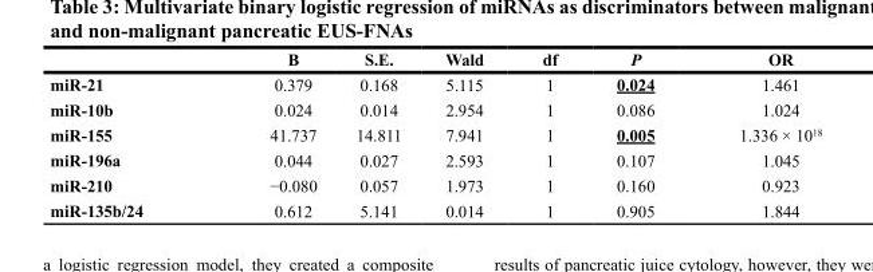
<table><thead><tr><td></td><td>B</td><td>S.E.</td><td>Wald</td><td>df</td><td>P</td><td>OR</td></tr></thead><tbody><tr><td>miR-21</td><td>0.379</td><td>0.168</td><td>5.115</td><td>1</td><td>0.024</td><td>1.461</td></tr><tr><td>miR-10b</td><td>0.024</td><td>0.014</td><td>2.954</td><td>1</td><td>0.086</td><td>1.024</td></tr><tr><td>miR-155</td><td>41.737</td><td>14.811</td><td>7.941</td><td>1</td><td>0.005</td><td>1.336 × 10<sup>18</sup></td></tr><tr><td>miR-196a</td><td>0.044</td><td>0.027</td><td>2.593</td><td>1</td><td>0.107</td><td>1.045</td></tr><tr><td>miR-210</td><td>−0.080</td><td>0.057</td><td>1.973</td><td>1</td><td>0.160</td><td>0.923</td></tr><tr><td>miR-135b/24</td><td>0.612</td><td>5.141</td><td>0.014</td><td>1</td><td>0.905</td><td>1.844</td></tr></tbody></table>